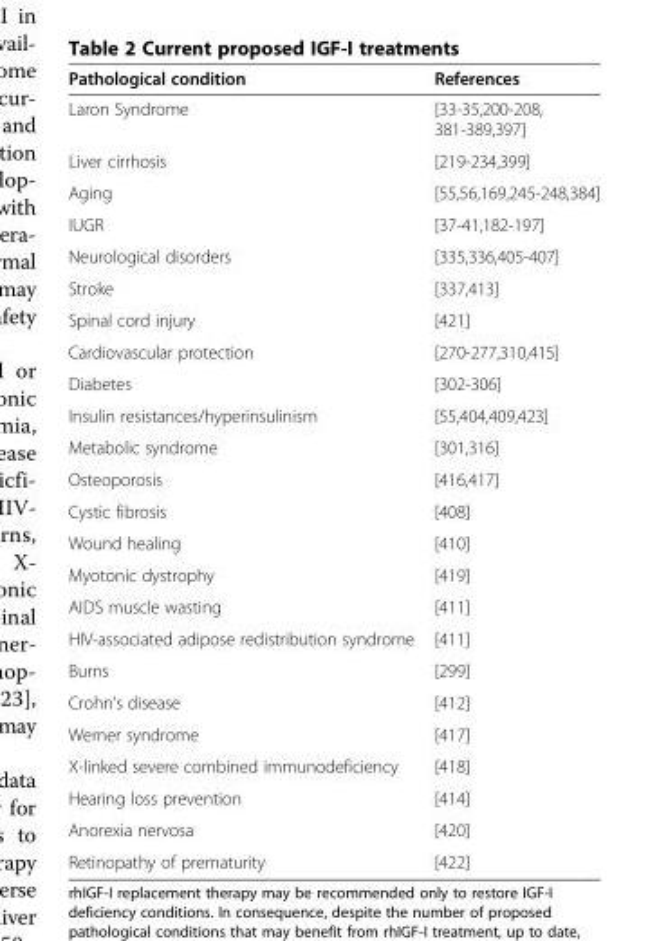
<table><thead><tr><td>Pathological condition</td><td>References</td></tr></thead><tbody><tr><td>Laron Syndrome</td><td>[33-35,200-208, 381-389,397]</td></tr><tr><td>Liver cirrhosis</td><td>[219-234,399]</td></tr><tr><td>Aging</td><td>[55,56,169,245-248,384]</td></tr><tr><td>IUGR</td><td>[37-41,182-197]</td></tr><tr><td>Neurological disorders</td><td>[335,336,405-407]</td></tr><tr><td>Stroke</td><td>[337,413]</td></tr><tr><td>Spinal cord injury</td><td>[421]</td></tr><tr><td>Cardiovascular protection</td><td>[270-277,310,415]</td></tr><tr><td>Diabetes</td><td>[302-306]</td></tr><tr><td>Insulin resistances/hyperinsulinism</td><td>[55,404,409,423]</td></tr><tr><td>Metabolic syndrome</td><td>[301,316]</td></tr><tr><td>Osteoporosis</td><td>[416,417]</td></tr><tr><td>Cystic fibrosis</td><td>[408]</td></tr><tr><td>Wound healing</td><td>[410]</td></tr><tr><td>Myotonic dystrophy</td><td>[419]</td></tr><tr><td>AIDS muscle wasting</td><td>[411]</td></tr><tr><td>HIV-associated adipose redistribution syndrome</td><td>[411]</td></tr><tr><td>Burns</td><td>[299]</td></tr><tr><td>Crohn’s disease</td><td>[412]</td></tr><tr><td>Werner syndrome</td><td>[417]</td></tr><tr><td>X-linked severe combined immunodeficiency</td><td>[418]</td></tr><tr><td>Hearing loss prevention</td><td>[414]</td></tr><tr><td>Anorexia nervosa</td><td>[420]</td></tr><tr><td>Retinopathy of prematurity</td><td>[422]</td></tr></tbody></table>